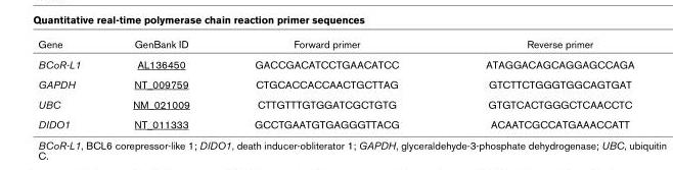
<table><thead><tr><td>Gene</td><td>GenBank ID</td><td>Forward primer</td><td>Reverse primer</td></tr></thead><tbody><tr><td>BCoR-L1</td><td>AL136450</td><td>GACCGACATCCTGAACATCC</td><td>ATAGGACAGCAGGAGCCAGA</td></tr><tr><td>GAPDH</td><td>NT_009759</td><td>CTGCACCACCAACTGCTTAG</td><td>GTCTTCTGGGTGGCAGTGAT</td></tr><tr><td>UBC</td><td>NM_021009</td><td>CTTGTTTGTGGATCGCTGTG</td><td>GTGTCACTGGGCTCAACCTC</td></tr><tr><td>DIDO1</td><td>NT_011333</td><td>GCCTGAATGTGAGGGTTACG</td><td>ACAATCGCCATGAAACCATT</td></tr></tbody></table>